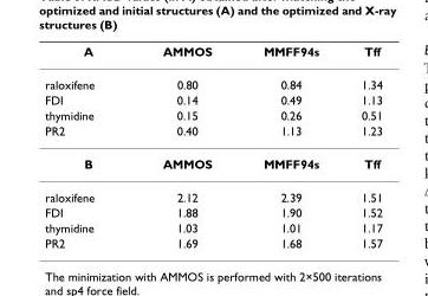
<table><thead><tr><td>A</td><td>AMMOS</td><td>MMFF94s</td><td>Tff</td></tr></thead><tbody><tr><td>raloxifene</td><td>0.80</td><td>0.84</td><td>1.34</td></tr><tr><td>FDI</td><td>0.14</td><td>0.49</td><td>1.13</td></tr><tr><td>thymidine</td><td>0.15</td><td>0.26</td><td>0.51</td></tr><tr><td>PR2</td><td>0.40</td><td>1.13</td><td>1.23</td></tr><tr><td>B</td><td>AMMOS</td><td>MMFF94s</td><td>Tff</td></tr><tr><td>raloxifene</td><td>2.12</td><td>2.39</td><td>1.51</td></tr><tr><td>FDI</td><td>1.88</td><td>1.90</td><td>1.52</td></tr><tr><td>thymidine</td><td>1.03</td><td>1.01</td><td>1.17</td></tr><tr><td>PR2</td><td>1.69</td><td>1.68</td><td>1.57</td></tr></tbody></table>